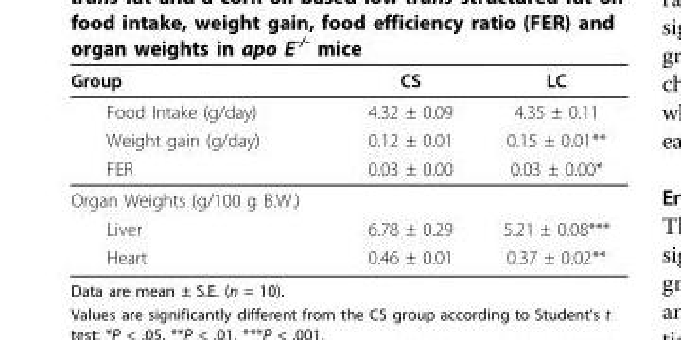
<table><thead><tr><td>Group</td><td>CS</td><td>LC</td></tr></thead><tbody><tr><td>Food Intake (g/day)</td><td>4.32 ± 0.09</td><td>4.35 ± 0.11</td></tr><tr><td>Weight gain (g/day)</td><td>0.12 ± 0.01</td><td>0.15 ± 0.01**</td></tr><tr><td>FER</td><td>0.03 ± 0.00</td><td>0.03 ± 0.00*</td></tr><tr><td colspan="3">Organ Weights (g/100 g B.W.)</td></tr><tr><td>Liver</td><td>6.78 ± 0.29</td><td>5.21 ± 0.08***</td></tr><tr><td>Heart</td><td>0.46 ± 0.01</td><td>0.37 ± 0.02**</td></tr></tbody></table>